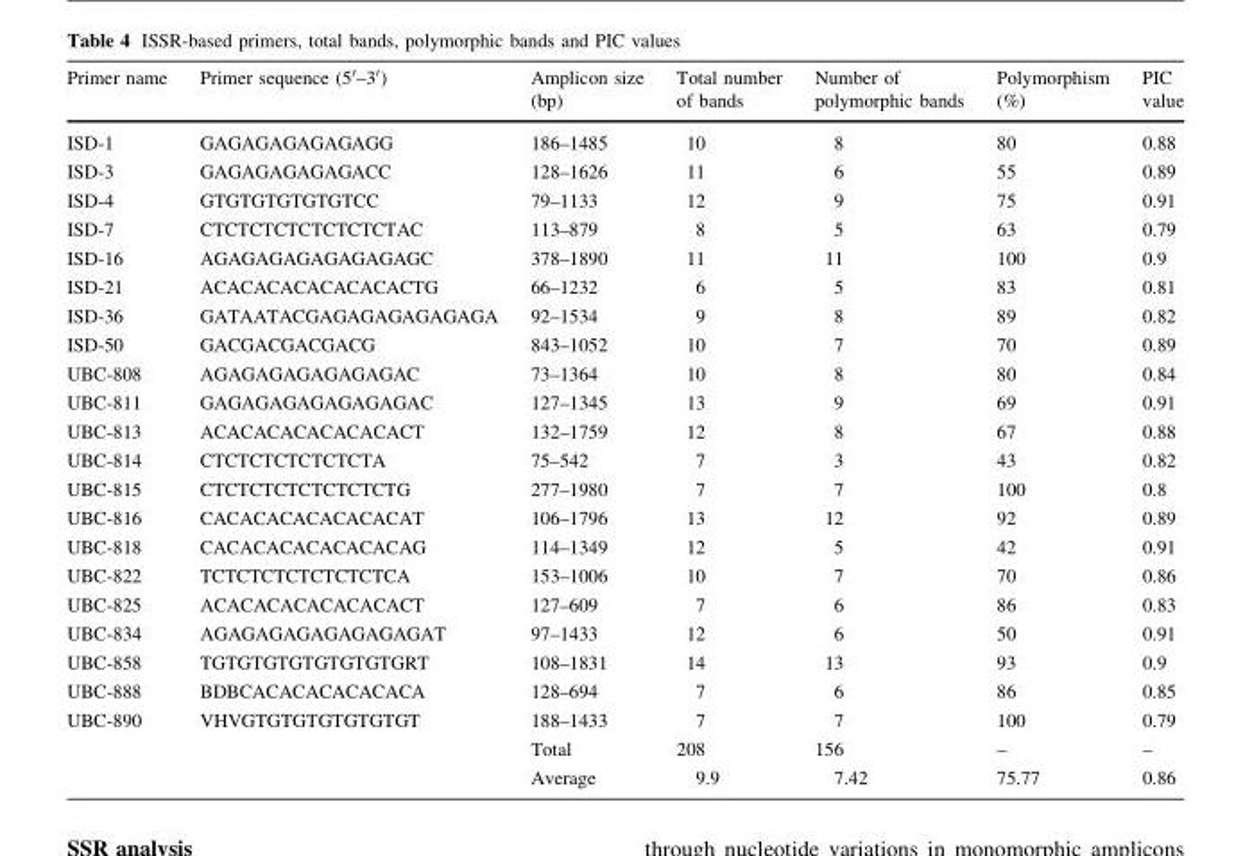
<table><thead><tr><td>Primer name</td><td>Primer sequence (5′–3′)</td><td>Amplicon size (bp)</td><td>Total number of bands</td><td>Number of polymorphic bands</td><td>Polymorphism (%)</td><td>PIC value</td></tr></thead><tbody><tr><td>ISD-1</td><td>GAGAGAGAGAGAGG</td><td>186–1485</td><td>10</td><td>8</td><td>80</td><td>0.88</td></tr><tr><td>ISD-3</td><td>GAGAGAGAGAGACC</td><td>128–1626</td><td>11</td><td>6</td><td>55</td><td>0.89</td></tr><tr><td>ISD-4</td><td>GTGTGTGTGTGTCC</td><td>79–1133</td><td>12</td><td>9</td><td>75</td><td>0.91</td></tr><tr><td>ISD-7</td><td>CTCTCTCTCTCTCTCTAC</td><td>113–879</td><td>8</td><td>5</td><td>63</td><td>0.79</td></tr><tr><td>ISD-16</td><td>AGAGAGAGAGAGAGAGC</td><td>378–1890</td><td>11</td><td>11</td><td>100</td><td>0.9</td></tr><tr><td>ISD-21</td><td>ACACACACACACACACTG</td><td>66–1232</td><td>6</td><td>5</td><td>83</td><td>0.81</td></tr><tr><td>ISD-36</td><td>GATAATACGAGAGAGAGAGAGA</td><td>92–1534</td><td>9</td><td>8</td><td>89</td><td>0.82</td></tr><tr><td>ISD-50</td><td>GACGACGACGACG</td><td>843–1052</td><td>10</td><td>7</td><td>70</td><td>0.89</td></tr><tr><td>UBC-808</td><td>AGAGAGAGAGAGAGAC</td><td>73–1364</td><td>10</td><td>8</td><td>80</td><td>0.84</td></tr><tr><td>UBC-811</td><td>GAGAGAGAGAGAGAGAC</td><td>127–1345</td><td>13</td><td>9</td><td>69</td><td>0.91</td></tr><tr><td>UBC-813</td><td>ACACACACACACACACT</td><td>132–1759</td><td>12</td><td>8</td><td>67</td><td>0.88</td></tr><tr><td>UBC-814</td><td>CTCTCTCTCTCTCTA</td><td>75–542</td><td>7</td><td>3</td><td>43</td><td>0.82</td></tr><tr><td>UBC-815</td><td>CTCTCTCTCTCTCTCTG</td><td>277–1980</td><td>7</td><td>7</td><td>100</td><td>0.8</td></tr><tr><td>UBC-816</td><td>CACACACACACACACAT</td><td>106–1796</td><td>13</td><td>12</td><td>92</td><td>0.89</td></tr><tr><td>UBC-818</td><td>CACACACACACACACAG</td><td>114–1349</td><td>12</td><td>5</td><td>42</td><td>0.91</td></tr><tr><td>UBC-822</td><td>TCTCTCTCTCTCTCTCA</td><td>153–1006</td><td>10</td><td>7</td><td>70</td><td>0.86</td></tr><tr><td>UBC-825</td><td>ACACACACACACACACT</td><td>127–609</td><td>7</td><td>6</td><td>86</td><td>0.83</td></tr><tr><td>UBC-834</td><td>AGAGAGAGAGAGAGAGAT</td><td>97–1433</td><td>12</td><td>6</td><td>50</td><td>0.91</td></tr><tr><td>UBC-858</td><td>TGTGTGTGTGTGTGTGRT</td><td>108–1831</td><td>14</td><td>13</td><td>93</td><td>0.9</td></tr><tr><td>UBC-888</td><td>BDBCACACACACACACA</td><td>128–694</td><td>7</td><td>6</td><td>86</td><td>0.85</td></tr><tr><td rowspan="3">UBC-890</td><td>VHVGTGTGTGTGTGTGT</td><td>188–1433</td><td>7</td><td>7</td><td>100</td><td>0.79</td></tr><tr><td></td><td>Total</td><td>208</td><td>156</td><td>–</td><td>–</td></tr><tr><td></td><td>Average</td><td>9.9</td><td>7.42</td><td>75.77</td><td>0.86</td></tr></tbody></table>